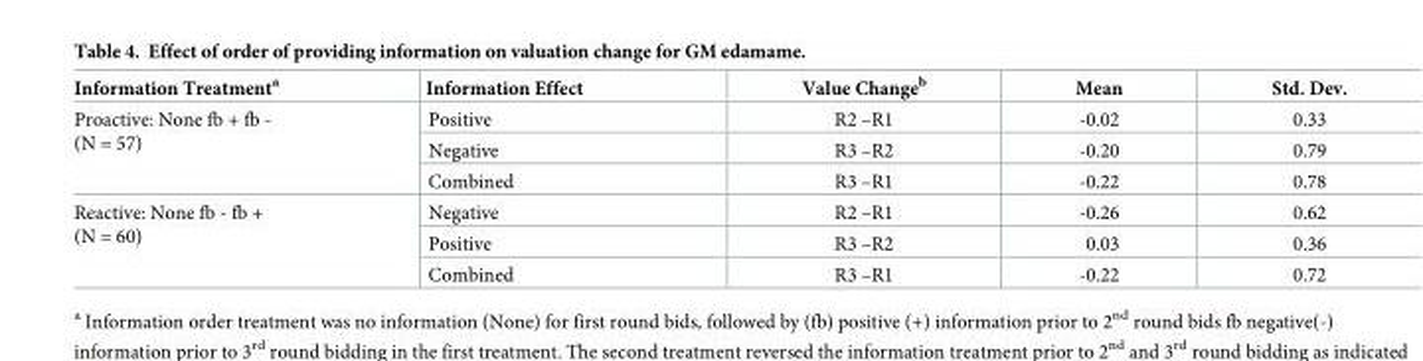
<table><thead><tr><td>Information Treatment<sup>a</sup></td><td>Information Effect</td><td>Value Change<sup>b</sup></td><td>Mean</td><td>Std. Dev.</td></tr></thead><tbody><tr><td rowspan="3">Proactive: None fb + fb - (N = 57)</td><td>Positive</td><td>R2 –R1</td><td>-0.02</td><td>0.33</td></tr><tr><td>Negative</td><td>R3 –R2</td><td>-0.20</td><td>0.79</td></tr><tr><td>Combined</td><td>R3 –R1</td><td>-0.22</td><td>0.78</td></tr><tr><td rowspan="3">Reactive: None fb - fb + (N = 60)</td><td>Negative</td><td>R2 –R1</td><td>-0.26</td><td>0.62</td></tr><tr><td>Positive</td><td>R3 –R2</td><td>0.03</td><td>0.36</td></tr><tr><td>Combined</td><td>R3 –R1</td><td>-0.22</td><td>0.72</td></tr></tbody></table>